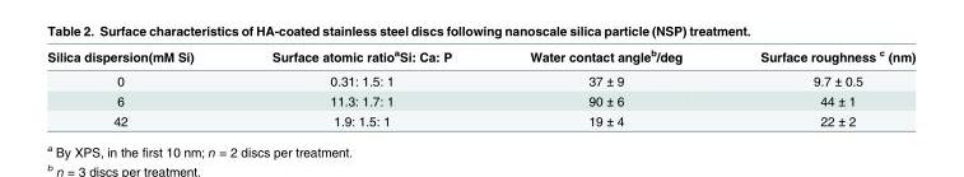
<table><thead><tr><td>Silica dispersion(mM Si)</td><td>Surface atomic ratio<sup>a</sup>Si: Ca: P</td><td>Water contact angle<sup>b</sup>/deg</td><td>Surface roughness <sup>c</sup> (nm)</td></tr></thead><tbody><tr><td>0</td><td>0.31: 1.5: 1</td><td>37 ± 9</td><td>9.7 ± 0.5</td></tr><tr><td>6</td><td>11.3: 1.7: 1</td><td>90 ± 6</td><td>44 ± 1</td></tr><tr><td>42</td><td>1.9: 1.5: 1</td><td>19 ± 4</td><td>22 ± 2</td></tr></tbody></table>